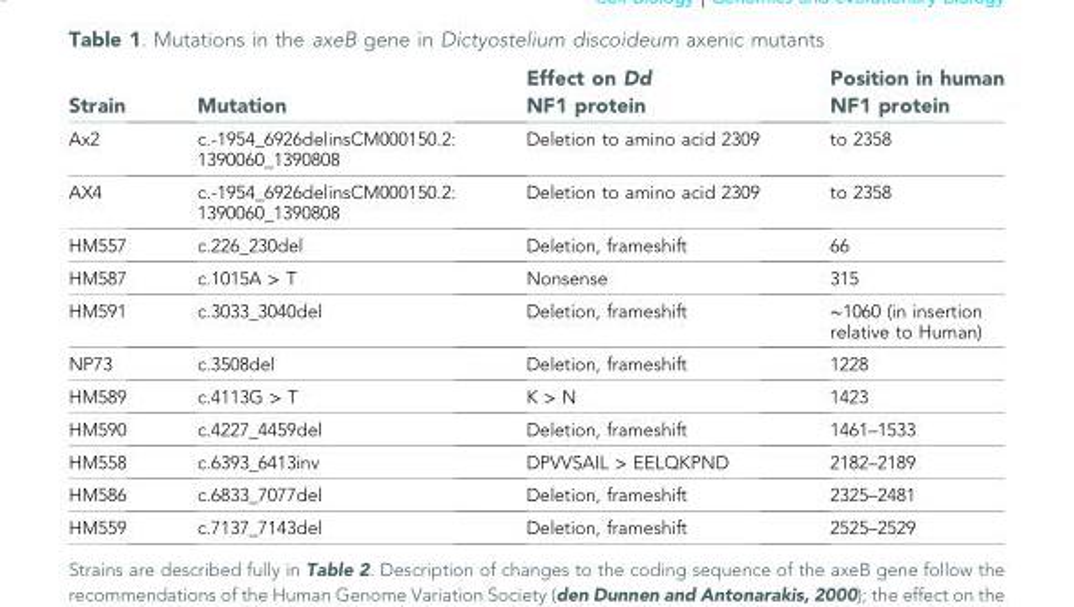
<table><thead><tr><td>Strain</td><td>Mutation</td><td>Effect on Dd NF1 protein</td><td>Position in human NF1 protein</td></tr></thead><tbody><tr><td>Ax2</td><td>c.-1954_6926delinsCM000150.2: 1390060_1390808</td><td>Deletion to amino acid 2309</td><td>to 2358</td></tr><tr><td>AX4</td><td>c.-1954_6926delinsCM000150.2: 1390060_1390808</td><td>Deletion to amino acid 2309</td><td>to 2358</td></tr><tr><td>HM557</td><td>c.226_230del</td><td>Deletion, frameshift</td><td>66</td></tr><tr><td>HM587</td><td>c.1015A &gt; T</td><td>Nonsense</td><td>315</td></tr><tr><td>HM591</td><td>c.3033_3040del</td><td>Deletion, frameshift</td><td>∼1060 (in insertion relative to Human)</td></tr><tr><td>NP73</td><td>c.3508del</td><td>Deletion, frameshift</td><td>1228</td></tr><tr><td>HM589</td><td>c.4113G &gt; T</td><td>K &gt; N</td><td>1423</td></tr><tr><td>HM590</td><td>c.4227_4459del</td><td>Deletion, frameshift</td><td>1461–1533</td></tr><tr><td>HM558</td><td>c.6393_6413inv</td><td>DPVVSAIL &gt; EELQKPND</td><td>2182–2189</td></tr><tr><td>HM586</td><td>c.6833_7077del</td><td>Deletion, frameshift</td><td>2325–2481</td></tr><tr><td>HM559</td><td>c.7137_7143del</td><td>Deletion, frameshift</td><td>2525–2529</td></tr></tbody></table>